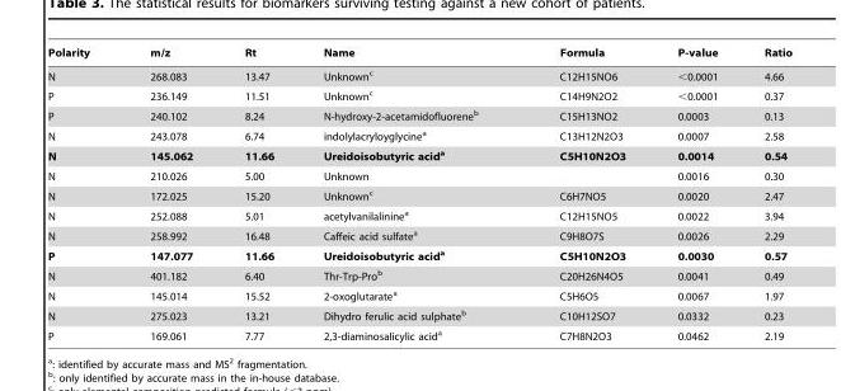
<table><thead><tr><td>Polarity</td><td>m/z</td><td>Rt</td><td>Name</td><td>Formula</td><td>P-value</td><td>Ratio</td></tr></thead><tbody><tr><td>N</td><td>268.083</td><td>13.47</td><td>Unknown<sup>c</sup></td><td>C12H15NO6</td><td>&lt;0.0001</td><td>4.66</td></tr><tr><td>P</td><td>236.149</td><td>11.51</td><td>Unknown<sup>c</sup></td><td>C14H9N2O2</td><td>&lt;0.0001</td><td>0.37</td></tr><tr><td>P</td><td>240.102</td><td>8.24</td><td>N-hydroxy-2-acetamidofluorene<sup>b</sup></td><td>C15H13NO2</td><td>0.0003</td><td>0.13</td></tr><tr><td>N</td><td>243.078</td><td>6.74</td><td>indolylacryloyglycine<sup>a</sup></td><td>C13H12N2O3</td><td>0.0007</td><td>2.58</td></tr><tr><td>N</td><td>145.062</td><td>11.66</td><td>Ureidoisobutyric acida</td><td>C5H10N2O3</td><td>0.0014</td><td>0.54</td></tr><tr><td>N</td><td>210.026</td><td>5.00</td><td>Unknown</td><td></td><td>0.0016</td><td>0.30</td></tr><tr><td>N</td><td>172.025</td><td>15.20</td><td>Unknown<sup>c</sup></td><td>C6H7NO5</td><td>0.0020</td><td>2.47</td></tr><tr><td>N</td><td>252.088</td><td>5.01</td><td>acetylvanilalinine<sup>a</sup></td><td>C12H15NO5</td><td>0.0022</td><td>3.94</td></tr><tr><td>N</td><td>258.992</td><td>16.48</td><td>Caffeic acid sulfate<sup>a</sup></td><td>C9H8O7S</td><td>0.0026</td><td>2.29</td></tr><tr><td>P</td><td>147.077</td><td>11.66</td><td>Ureidoisobutyric acida</td><td>C5H10N2O3</td><td>0.0030</td><td>0.57</td></tr><tr><td>N</td><td>401.182</td><td>6.40</td><td>Thr-Trp-Pro<sup>b</sup></td><td>C20H26N4O5</td><td>0.0041</td><td>0.49</td></tr><tr><td>N</td><td>145.014</td><td>15.52</td><td>2-oxoglutarate<sup>a</sup></td><td>C5H6O5</td><td>0.0067</td><td>1.97</td></tr><tr><td>N</td><td>275.023</td><td>13.21</td><td>Dihydro ferulic acid sulphate<sup>b</sup></td><td>C10H12SO7</td><td>0.0332</td><td>0.23</td></tr><tr><td>P</td><td>169.061</td><td>7.77</td><td>2,3-diaminosalicylic acid<sup>a</sup></td><td>C7H8N2O3</td><td>0.0462</td><td>2.19</td></tr></tbody></table>